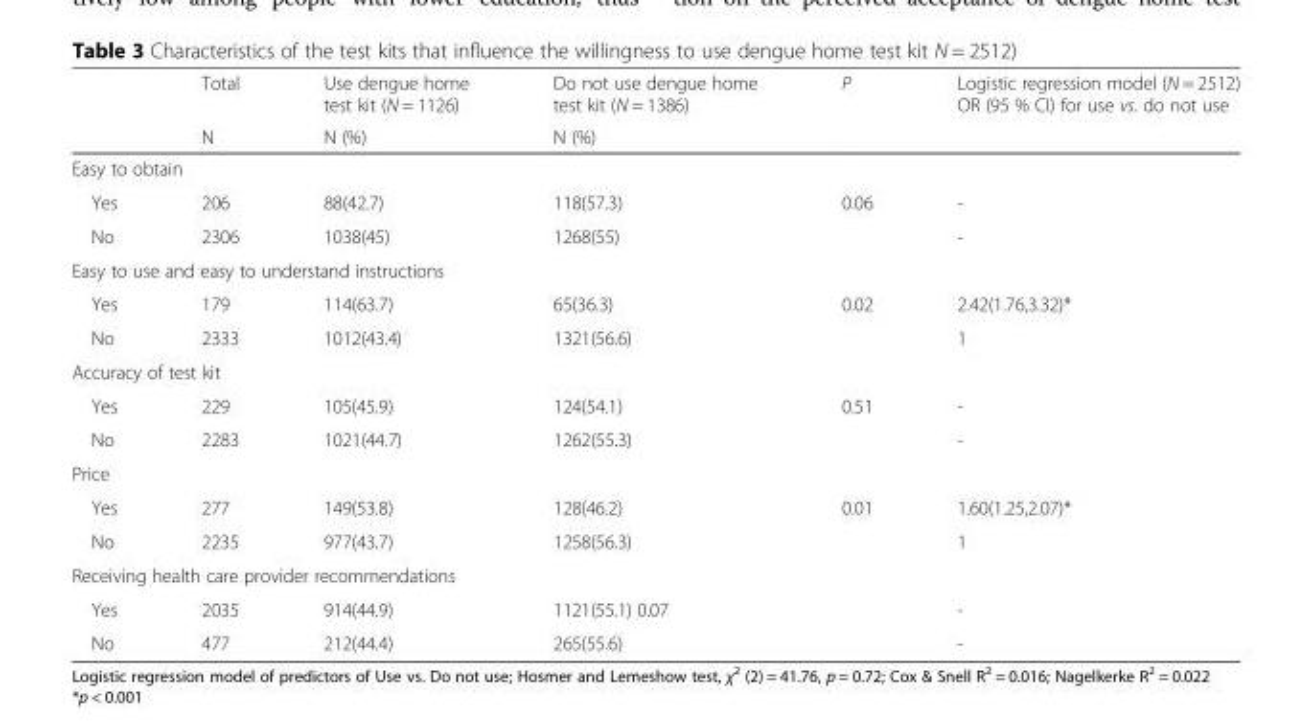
<table><thead><tr><td rowspan="2"></td><td rowspan="2">Total N</td><td rowspan="2">Use dengue home test kit (N = 1126) N (%)</td><td rowspan="2">Do not use dengue home test kit (N = 1386) N (%)</td><td rowspan="2">P</td><td rowspan="2">Logistic regression model (N = 2512) OR (95 % CI) for use vs. do not use</td></tr><tr></tr></thead><tbody><tr><td colspan="6">Easy to obtain</td></tr><tr><td>Yes</td><td>206</td><td>88(42.7)</td><td>118(57.3)</td><td>0.06</td><td>-</td></tr><tr><td>No</td><td>2306</td><td>1038(45)</td><td>1268(55)</td><td></td><td>-</td></tr><tr><td colspan="6">Easy to use and easy to understand instructions</td></tr><tr><td>Yes</td><td>179</td><td>114(63.7)</td><td>65(36.3)</td><td>0.02</td><td>2.42(1.76,3.32)*</td></tr><tr><td>No</td><td>2333</td><td>1012(43.4)</td><td colspan="2">1321(56.6)</td><td>1</td></tr><tr><td colspan="6">Accuracy of test kit</td></tr><tr><td>Yes</td><td>229</td><td>105(45.9)</td><td>124(54.1)</td><td>0.51</td><td>-</td></tr><tr><td>No</td><td>2283</td><td>1021(44.7)</td><td colspan="2">1262(55.3)</td><td>-</td></tr><tr><td colspan="6">Price</td></tr><tr><td>Yes</td><td>277</td><td>149(53.8)</td><td>128(46.2)</td><td>0.01</td><td>1.60(1.25,2.07)*</td></tr><tr><td>No</td><td>2235</td><td>977(43.7)</td><td colspan="2">1258(56.3)</td><td>1</td></tr><tr><td colspan="6">Receiving health care provider recommendations</td></tr><tr><td>Yes</td><td>2035</td><td>914(44.9)</td><td colspan="2">1121(55.1) 0.07</td><td>-</td></tr><tr><td>No</td><td>477</td><td>212(44.4)</td><td>265(55.6)</td><td></td><td>-</td></tr></tbody></table>